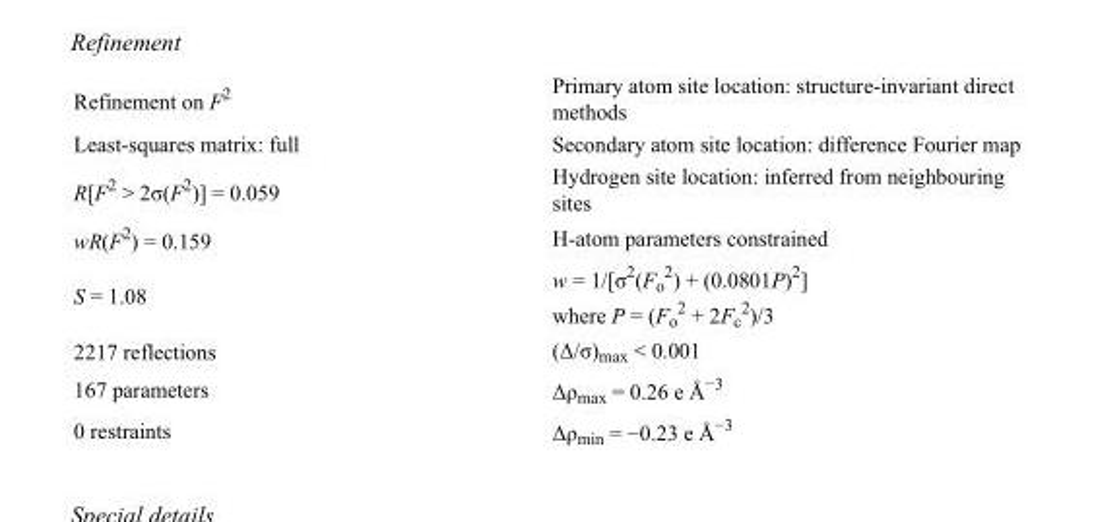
<table><tbody><tr><td>Refinement on F<sup>2</sup></td><td>Primary atom site location: structure-invariant direct methods</td></tr><tr><td>Least-squares matrix: full</td><td>Secondary atom site location: difference Fourier map</td></tr><tr><td>R[F<sup>2</sup> &gt; 2σ(F<sup>2</sup>)] = 0.059</td><td>Hydrogen site location: inferred from neighbouring sites</td></tr><tr><td>wR(F<sup>2</sup>) = 0.159</td><td>H-atom parameters constrained</td></tr><tr><td>S = 1.08</td><td>w = 1/[σ<sup>2</sup>(F<sub>o</sub> <sup>2</sup>) + (0.0801P)<sup>2</sup>] where P = (F<sub>o</sub> <sup>2</sup> + 2F<sub>c</sub> <sup>2</sup>)/3</td></tr><tr><td>2217 reflections</td><td>(Δ/σ)<sub>max</sub> &lt; 0.001</td></tr><tr><td>167 parameters</td><td>Δρ<sub>max</sub> = 0.26 e Å<sup>−3</sup></td></tr><tr><td>0 restraints</td><td>Δρ<sub>min</sub> = −0.23 e Å<sup>−3</sup></td></tr></tbody></table>